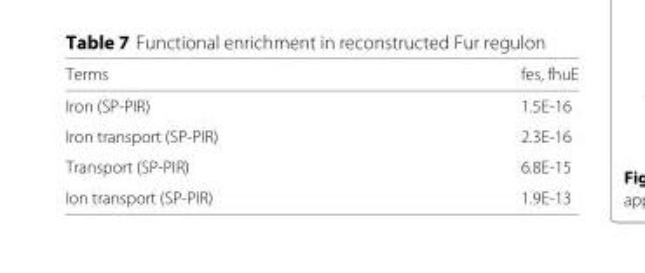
<table><thead><tr><td>Terms</td><td>fes, fhuE</td></tr></thead><tbody><tr><td>Iron (SP-PIR)</td><td>1.5E-16</td></tr><tr><td>Iron transport (SP-PIR)</td><td>2.3E-16</td></tr><tr><td>Transport (SP-PIR)</td><td>6.8E-15</td></tr><tr><td>Ion transport (SP-PIR)</td><td>1.9E-13</td></tr></tbody></table>